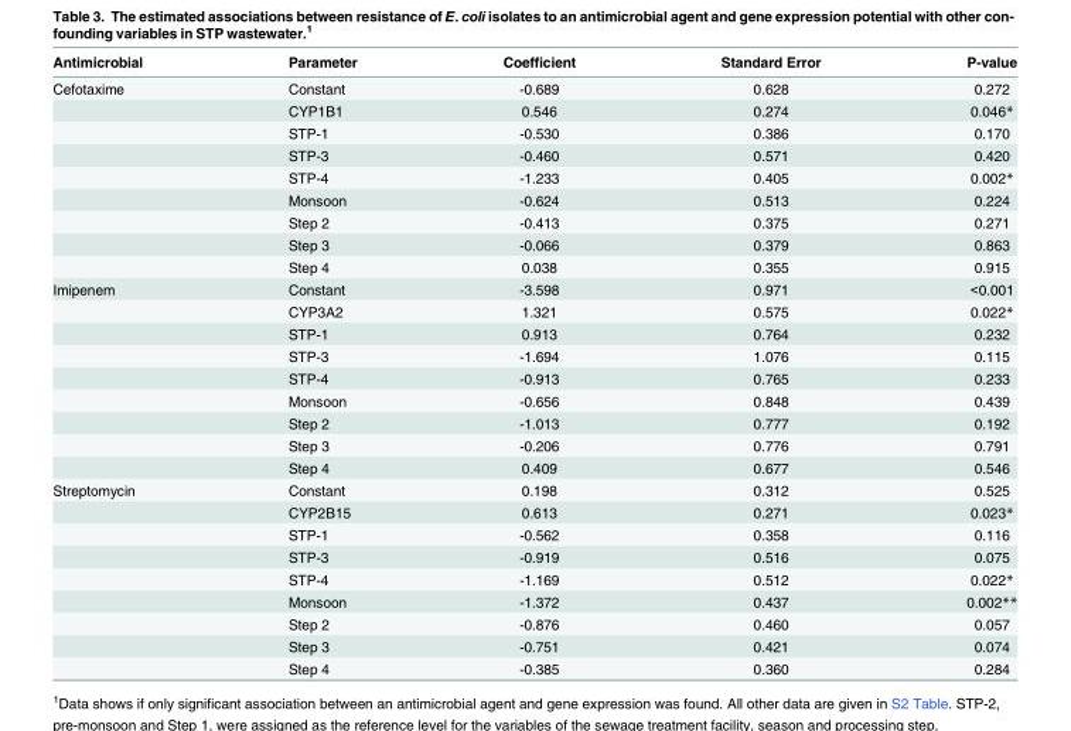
<table><thead><tr><td>Antimicrobial</td><td>Parameter</td><td>Coefficient</td><td>Standard Error</td><td>P-value</td></tr></thead><tbody><tr><td rowspan="9">Cefotaxime</td><td>Constant</td><td>-0.689</td><td>0.628</td><td>0.272</td></tr><tr><td>CYP1B1</td><td>0.546</td><td>0.274</td><td>0.046*</td></tr><tr><td>STP-1</td><td>-0.530</td><td>0.386</td><td>0.170</td></tr><tr><td>STP-3</td><td>-0.460</td><td>0.571</td><td>0.420</td></tr><tr><td>STP-4</td><td>-1.233</td><td>0.405</td><td>0.002*</td></tr><tr><td>Monsoon</td><td>-0.624</td><td>0.513</td><td>0.224</td></tr><tr><td>Step 2</td><td>-0.413</td><td>0.375</td><td>0.271</td></tr><tr><td>Step 3</td><td>-0.066</td><td>0.379</td><td>0.863</td></tr><tr><td>Step 4</td><td>0.038</td><td>0.355</td><td>0.915</td></tr><tr><td rowspan="9">Imipenem</td><td>Constant</td><td>-3.598</td><td>0.971</td><td>&lt;0.001</td></tr><tr><td>CYP3A2</td><td>1.321</td><td>0.575</td><td>0.022*</td></tr><tr><td>STP-1</td><td>0.913</td><td>0.764</td><td>0.232</td></tr><tr><td>STP-3</td><td>-1.694</td><td>1.076</td><td>0.115</td></tr><tr><td>STP-4</td><td>-0.913</td><td>0.765</td><td>0.233</td></tr><tr><td>Monsoon</td><td>-0.656</td><td>0.848</td><td>0.439</td></tr><tr><td>Step 2</td><td>-1.013</td><td>0.777</td><td>0.192</td></tr><tr><td>Step 3</td><td>-0.206</td><td>0.776</td><td>0.791</td></tr><tr><td>Step 4</td><td>0.409</td><td>0.677</td><td>0.546</td></tr><tr><td rowspan="9">Streptomycin</td><td>Constant</td><td>0.198</td><td>0.312</td><td>0.525</td></tr><tr><td>CYP2B15</td><td>0.613</td><td>0.271</td><td>0.023*</td></tr><tr><td>STP-1</td><td>-0.562</td><td>0.358</td><td>0.116</td></tr><tr><td>STP-3</td><td>-0.919</td><td>0.516</td><td>0.075</td></tr><tr><td>STP-4</td><td>-1.169</td><td>0.512</td><td>0.022*</td></tr><tr><td>Monsoon</td><td>-1.372</td><td>0.437</td><td>0.002**</td></tr><tr><td>Step 2</td><td>-0.876</td><td>0.460</td><td>0.057</td></tr><tr><td>Step 3</td><td>-0.751</td><td>0.421</td><td>0.074</td></tr><tr><td>Step 4</td><td>-0.385</td><td>0.360</td><td>0.284</td></tr></tbody></table>